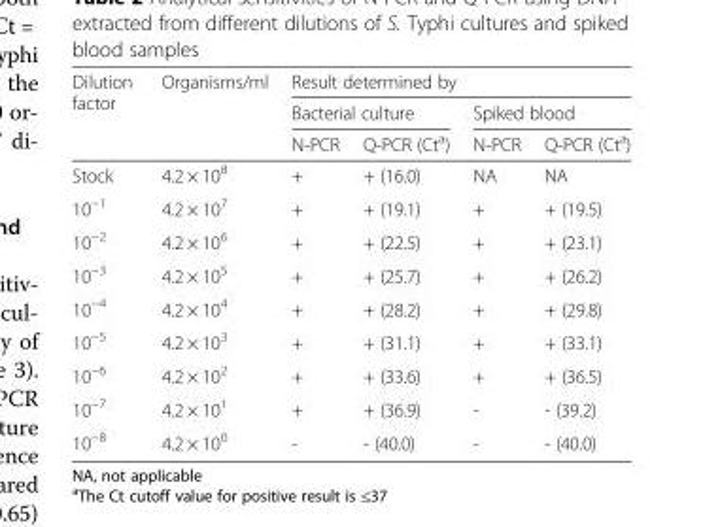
<table><thead><tr><td rowspan="3">Dilution factor</td><td rowspan="3">Organisms/ml</td><td colspan="4">Result determined by</td></tr><tr><td colspan="2">Bacterial culture</td><td colspan="2">Spiked blood</td></tr><tr><td>N-PCR</td><td>Q-PCR (Ct<sup>a</sup>)</td><td>N-PCR</td><td>Q-PCR (Ct<sup>a</sup>)</td></tr></thead><tbody><tr><td>Stock</td><td>4.2 × 10<sup>8</sup></td><td>+</td><td>+ (16.0)</td><td>NA</td><td>NA</td></tr><tr><td>10<sup>−1</sup></td><td>4.2 × 10<sup>7</sup></td><td>+</td><td>+ (19.1)</td><td>+</td><td>+ (19.5)</td></tr><tr><td>10<sup>−2</sup></td><td>4.2 × 10<sup>6</sup></td><td>+</td><td>+ (22.5)</td><td>+</td><td>+ (23.1)</td></tr><tr><td>10<sup>−3</sup></td><td>4.2 × 10<sup>5</sup></td><td>+</td><td>+ (25.7)</td><td>+</td><td>+ (26.2)</td></tr><tr><td>10<sup>−4</sup></td><td>4.2 × 10<sup>4</sup></td><td>+</td><td>+ (28.2)</td><td>+</td><td>+ (29.8)</td></tr><tr><td>10<sup>−5</sup></td><td>4.2 × 10<sup>3</sup></td><td>+</td><td>+ (31.1)</td><td>+</td><td>+ (33.1)</td></tr><tr><td>10<sup>−6</sup></td><td>4.2 × 10<sup>2</sup></td><td>+</td><td>+ (33.6)</td><td>+</td><td>+ (36.5)</td></tr><tr><td>10<sup>−7</sup></td><td>4.2 × 10<sup>1</sup></td><td>+</td><td>+ (36.9)</td><td>-</td><td>- (39.2)</td></tr><tr><td>10<sup>−8</sup></td><td>4.2 × 10<sup>0</sup></td><td>-</td><td>- (40.0)</td><td>-</td><td>- (40.0)</td></tr></tbody></table>